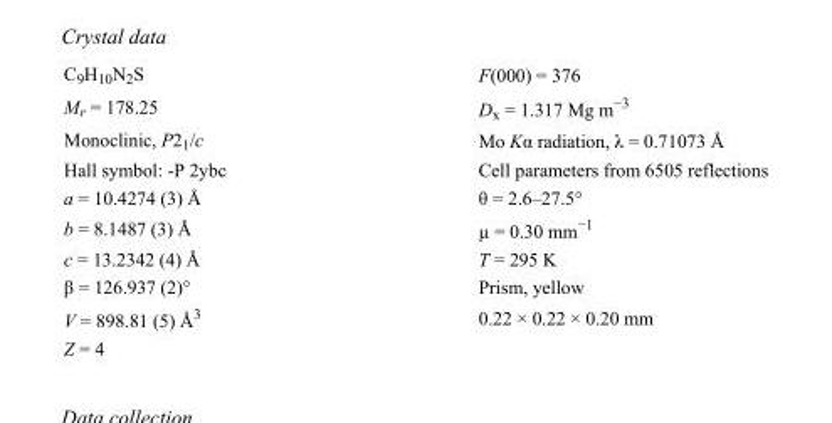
<table><tbody><tr><td>C<sub>9</sub>H<sub>10</sub>N<sub>2</sub>S</td><td>F(000) = 376</td></tr><tr><td>M<sub>r</sub> = 178.25</td><td>D<sub>x</sub> = 1.317 Mg m<sup>−3</sup></td></tr><tr><td>Monoclinic, P2<sub>1</sub>/c</td><td>Mo Kα radiation, λ = 0.71073 Å</td></tr><tr><td>Hall symbol: -P 2ybc</td><td>Cell parameters from 6505 reflections</td></tr><tr><td>a = 10.4274 (3) Å</td><td>θ = 2.6–27.5°</td></tr><tr><td>b = 8.1487 (3) Å</td><td>µ = 0.30 mm<sup>−1</sup></td></tr><tr><td>c = 13.2342 (4) Å</td><td>T = 295 K</td></tr><tr><td>β = 126.937 (2)°</td><td>Prism, yellow</td></tr><tr><td>V = 898.81 (5) Å<sup>3</sup></td><td>0.22 × 0.22 × 0.20 mm</td></tr><tr><td>Z = 4</td><td></td></tr></tbody></table>